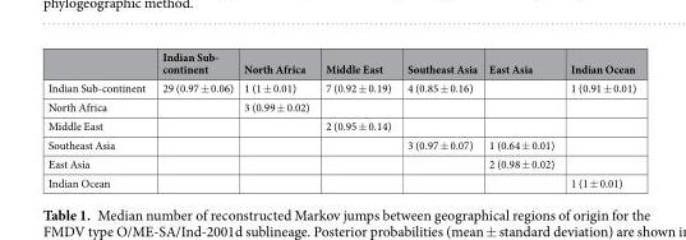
<table><thead><tr><td></td><td>Indian Sub- continent</td><td>North Africa</td><td>Middle East</td><td>Southeast Asia</td><td>East Asia</td><td>Indian Ocean</td></tr></thead><tbody><tr><td>Indian Sub-continent</td><td>29 (0.97 ± 0.06)</td><td>1 (1 ± 0.01)</td><td>7 (0.92 ± 0.19)</td><td>4 (0.85 ± 0.16)</td><td></td><td>1 (0.91 ± 0.01)</td></tr><tr><td>North Africa</td><td></td><td>3 (0.99 ± 0.02)</td><td></td><td></td><td></td><td></td></tr><tr><td>Middle East</td><td></td><td></td><td>2 (0.95 ± 0.14)</td><td></td><td></td><td></td></tr><tr><td>Southeast Asia</td><td></td><td></td><td></td><td>3 (0.97 ± 0.07)</td><td>1 (0.64 ± 0.01)</td><td></td></tr><tr><td>East Asia</td><td></td><td></td><td></td><td></td><td>2 (0.98 ± 0.02)</td><td></td></tr><tr><td>Indian Ocean</td><td></td><td></td><td></td><td></td><td></td><td>1 (1 ± 0.01)</td></tr></tbody></table>